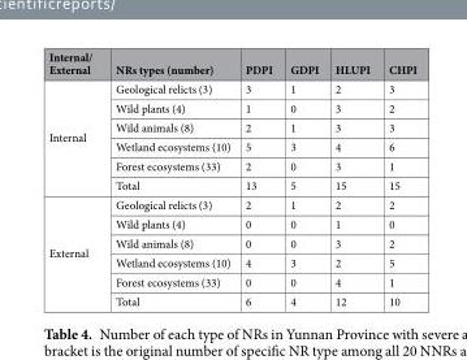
<table><thead><tr><td>Internal/ External</td><td>NRs types (number)</td><td>PDPI</td><td>GDPI</td><td>HLUPI</td><td>CHPI</td></tr></thead><tbody><tr><td rowspan="6">Internal</td><td>Geological relicts (3)</td><td>3</td><td>1</td><td>2</td><td>3</td></tr><tr><td>Wild plants (4)</td><td>1</td><td>0</td><td>3</td><td>2</td></tr><tr><td>Wild animals (8)</td><td>2</td><td>1</td><td>3</td><td>3</td></tr><tr><td>Wetland ecosystems (10)</td><td>5</td><td>3</td><td>4</td><td>6</td></tr><tr><td>Forest ecosystems (33)</td><td>2</td><td>0</td><td>3</td><td>1</td></tr><tr><td>Total</td><td>13</td><td>5</td><td>15</td><td>15</td></tr><tr><td rowspan="6">External</td><td>Geological relicts (3)</td><td>2</td><td>1</td><td>2</td><td>2</td></tr><tr><td>Wild plants (4)</td><td>0</td><td>0</td><td>1</td><td>0</td></tr><tr><td>Wild animals (8)</td><td>0</td><td>0</td><td>3</td><td>2</td></tr><tr><td>Wetland ecosystems (10)</td><td>4</td><td>3</td><td>2</td><td>5</td></tr><tr><td>Forest ecosystems (33)</td><td>0</td><td>0</td><td>4</td><td>1</td></tr><tr><td>Total</td><td>6</td><td>4</td><td>12</td><td>10</td></tr></tbody></table>